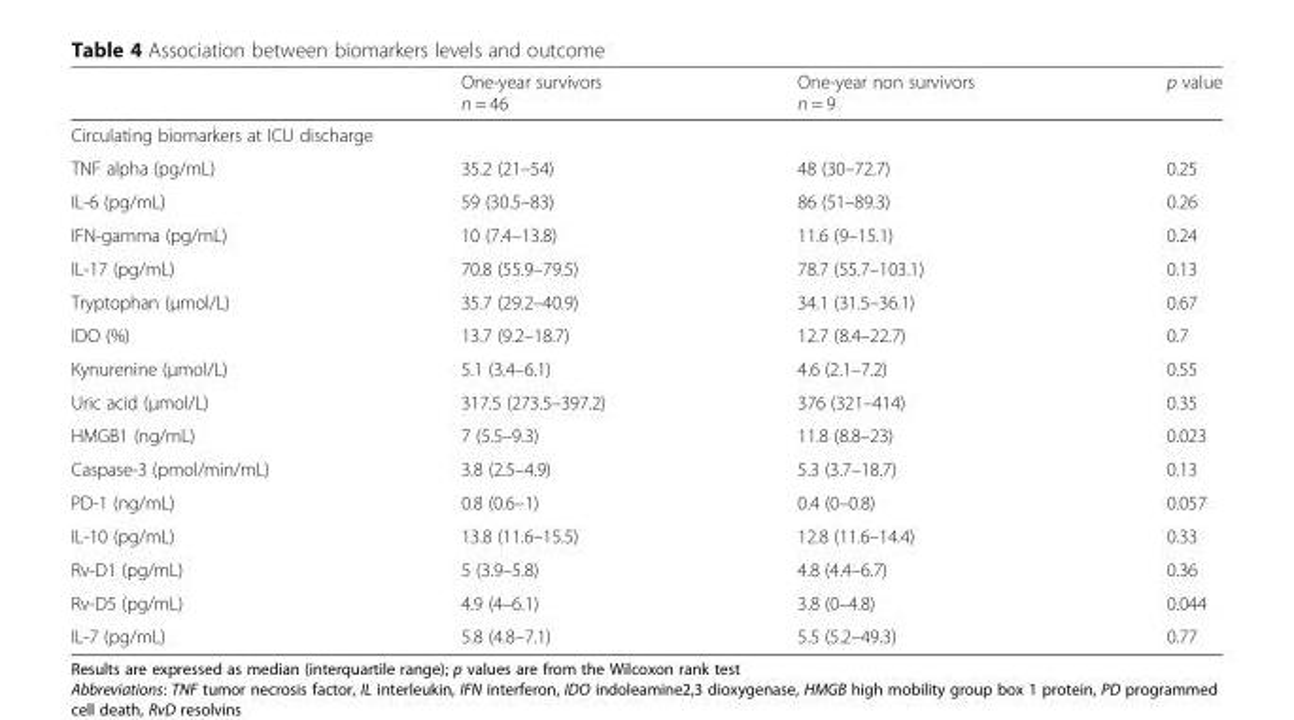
<table><thead><tr><td></td><td>One-year survivors n = 46</td><td>One-year non survivors n = 9</td><td>p value</td></tr></thead><tbody><tr><td colspan="4">Circulating biomarkers at ICU discharge</td></tr><tr><td>TNF alpha (pg/mL)</td><td>35.2 (21–54)</td><td>48 (30–72.7)</td><td>0.25</td></tr><tr><td>IL-6 (pg/mL)</td><td>59 (30.5–83)</td><td>86 (51–89.3)</td><td>0.26</td></tr><tr><td>IFN-gamma (pg/mL)</td><td>10 (7.4–13.8)</td><td>11.6 (9–15.1)</td><td>0.24</td></tr><tr><td>IL-17 (pg/mL)</td><td>70.8 (55.9–79.5)</td><td>78.7 (55.7–103.1)</td><td>0.13</td></tr><tr><td>Tryptophan (μmol/L)</td><td>35.7 (29.2–40.9)</td><td>34.1 (31.5–36.1)</td><td>0.67</td></tr><tr><td>IDO (%)</td><td>13.7 (9.2–18.7)</td><td>12.7 (8.4–22.7)</td><td>0.7</td></tr><tr><td>Kynurenine (μmol/L)</td><td>5.1 (3.4–6.1)</td><td>4.6 (2.1–7.2)</td><td>0.55</td></tr><tr><td>Uric acid (μmol/L)</td><td>317.5 (273.5–397.2)</td><td>376 (321–414)</td><td>0.35</td></tr><tr><td>HMGB1 (ng/mL)</td><td>7 (5.5–9.3)</td><td>11.8 (8.8–23)</td><td>0.023</td></tr><tr><td>Caspase-3 (pmol/min/mL)</td><td>3.8 (2.5–4.9)</td><td>5.3 (3.7–18.7)</td><td>0.13</td></tr><tr><td>PD-1 (ng/mL)</td><td>0.8 (0.6–1)</td><td>0.4 (0–0.8)</td><td>0.057</td></tr><tr><td>IL-10 (pg/mL)</td><td>13.8 (11.6–15.5)</td><td>12.8 (11.6–14.4)</td><td>0.33</td></tr><tr><td>Rv-D1 (pg/mL)</td><td>5 (3.9–5.8)</td><td>4.8 (4.4–6.7)</td><td>0.36</td></tr><tr><td>Rv-D5 (pg/mL)</td><td>4.9 (4–6.1)</td><td>3.8 (0–4.8)</td><td>0.044</td></tr><tr><td>IL-7 (pg/mL)</td><td>5.8 (4.8–7.1)</td><td>5.5 (5.2–49.3)</td><td>0.77</td></tr></tbody></table>